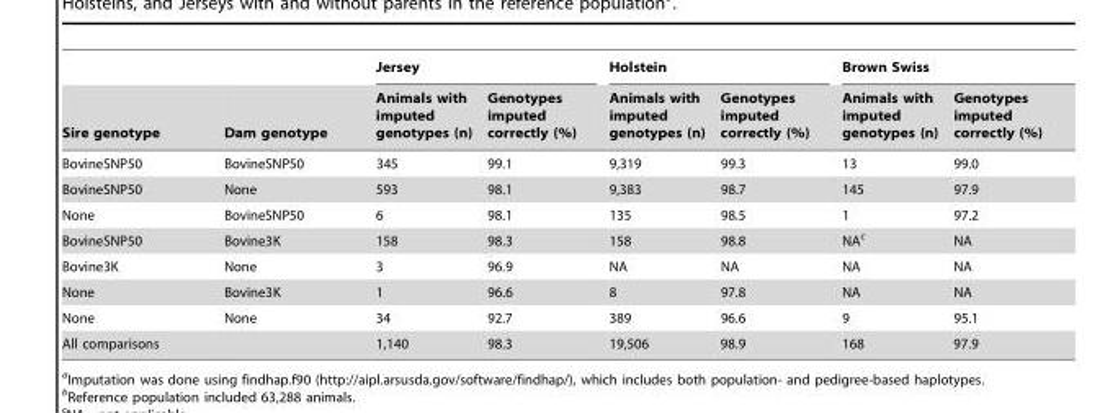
<table><thead><tr><td rowspan="2">Sire genotype</td><td rowspan="2">Dam genotype</td><td colspan="2">Jersey</td><td colspan="2">Holstein</td><td colspan="2">Brown Swiss</td></tr><tr><td>Animals with imputed genotypes (n)</td><td>Genotypes imputed correctly (%)</td><td>Animals with imputed genotypes (n)</td><td>Genotypes imputed correctly (%)</td><td>Animals with imputed genotypes (n)</td><td>Genotypes imputed correctly (%)</td></tr></thead><tbody><tr><td>BovineSNP50</td><td>BovineSNP50</td><td>345</td><td>99.1</td><td>9,319</td><td>99.3</td><td>13</td><td>99.0</td></tr><tr><td>BovineSNP50</td><td>None</td><td>593</td><td>98.1</td><td>9,383</td><td>98.7</td><td>145</td><td>97.9</td></tr><tr><td>None</td><td>BovineSNP50</td><td>6</td><td>98.1</td><td>135</td><td>98.5</td><td>1</td><td>97.2</td></tr><tr><td>BovineSNP50</td><td>Bovine3K</td><td>158</td><td>98.3</td><td>158</td><td>98.8</td><td>NA<sup>c</sup></td><td>NA</td></tr><tr><td>Bovine3K</td><td>None</td><td>3</td><td>96.9</td><td>NA</td><td>NA</td><td>NA</td><td>NA</td></tr><tr><td>None</td><td>Bovine3K</td><td>1</td><td>96.6</td><td>8</td><td>97.8</td><td>NA</td><td>NA</td></tr><tr><td>None</td><td>None</td><td>34</td><td>92.7</td><td>389</td><td>96.6</td><td>9</td><td>95.1</td></tr><tr><td>All comparisons</td><td></td><td>1,140</td><td>98.3</td><td>19,506</td><td>98.9</td><td>168</td><td>97.9</td></tr></tbody></table>